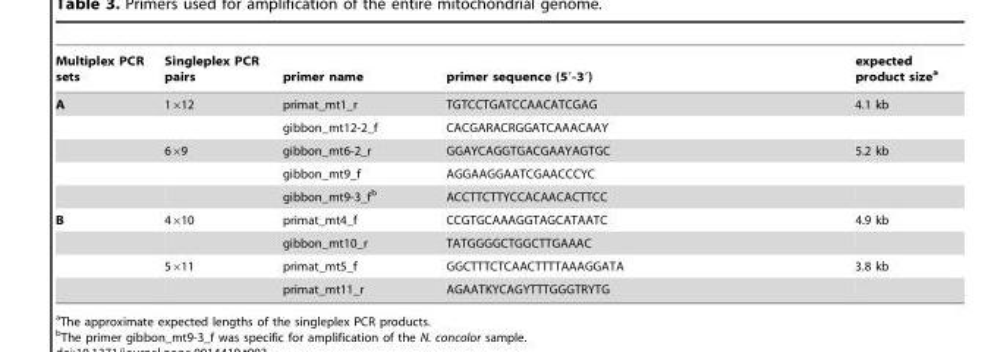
<table><thead><tr><td>Multiplex PCR sets</td><td>Singleplex PCR pairs</td><td>primer name</td><td>primer sequence (5′-3′)</td><td>expected product size<sup>a</sup></td></tr></thead><tbody><tr><td rowspan="5">A</td><td>1×12</td><td>primat_mt1_r</td><td>TGTCCTGATCCAACATCGAG</td><td>4.1 kb</td></tr><tr><td></td><td>gibbon_mt12-2_f</td><td>CACGARACRGGATCAAACAAY</td><td></td></tr><tr><td>6×9</td><td>gibbon_mt6-2_r</td><td>GGAYCAGGTGACGAAYAGTGC</td><td>5.2 kb</td></tr><tr><td></td><td>gibbon_mt9_f</td><td>AGGAAGGAATCGAACCCYC</td><td></td></tr><tr><td></td><td>gibbon_mt9-3_f<sup>b</sup></td><td>ACCTTCTTYCCACAACACTTCC</td><td></td></tr><tr><td rowspan="4">B</td><td>4×10</td><td>primat_mt4_f</td><td>CCGTGCAAAGGTAGCATAATC</td><td>4.9 kb</td></tr><tr><td></td><td>gibbon_mt10_r</td><td>TATGGGGCTGGCTTGAAAC</td><td></td></tr><tr><td>5×11</td><td>primat_mt5_f</td><td>GGCTTTCTCAACTTTTAAAGGATA</td><td>3.8 kb</td></tr><tr><td></td><td>primat_mt11_r</td><td>AGAATKYCAGYTTTGGGTRYTG</td><td></td></tr></tbody></table>